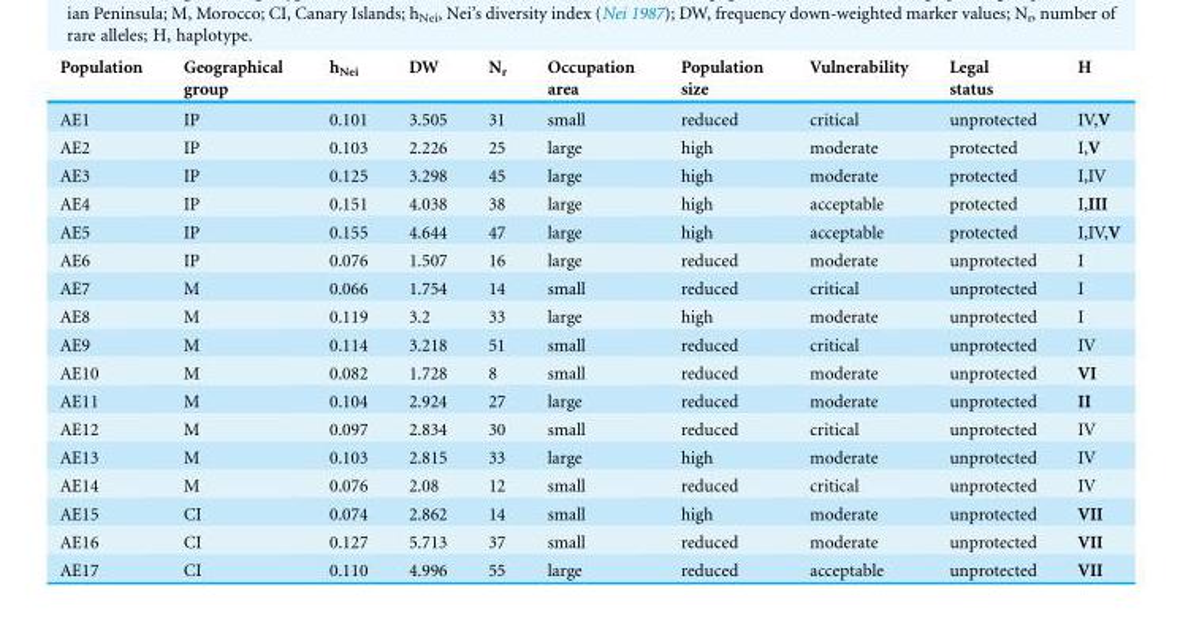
<table><thead><tr><td>Population</td><td>Geographical group</td><td>h<sub>Nei</sub></td><td>DW</td><td>N<sub>r</sub></td><td>Occupation area</td><td>Population size</td><td>Vulnerability</td><td>Legal status</td><td>H</td></tr></thead><tbody><tr><td>AE1</td><td>IP</td><td>0.101</td><td>3.505</td><td>31</td><td>small</td><td>reduced</td><td>critical</td><td>unprotected</td><td>IV,V</td></tr><tr><td>AE2</td><td>IP</td><td>0.103</td><td>2.226</td><td>25</td><td>large</td><td>high</td><td>moderate</td><td>protected</td><td>I,V</td></tr><tr><td>AE3</td><td>IP</td><td>0.125</td><td>3.298</td><td>45</td><td>large</td><td>high</td><td>moderate</td><td>protected</td><td>I,IV</td></tr><tr><td>AE4</td><td>IP</td><td>0.151</td><td>4.038</td><td>38</td><td>large</td><td>high</td><td>acceptable</td><td>protected</td><td>I,III</td></tr><tr><td>AE5</td><td>IP</td><td>0.155</td><td>4.644</td><td>47</td><td>large</td><td>high</td><td>acceptable</td><td>protected</td><td>I,IV,V</td></tr><tr><td>AE6</td><td>IP</td><td>0.076</td><td>1.507</td><td>16</td><td>large</td><td>reduced</td><td>moderate</td><td>unprotected</td><td>I</td></tr><tr><td>AE7</td><td>M</td><td>0.066</td><td>1.754</td><td>14</td><td>small</td><td>reduced</td><td>critical</td><td>unprotected</td><td>I</td></tr><tr><td>AE8</td><td>M</td><td>0.119</td><td>3.2</td><td>33</td><td>large</td><td>high</td><td>moderate</td><td>unprotected</td><td>I</td></tr><tr><td>AE9</td><td>M</td><td>0.114</td><td>3.218</td><td>51</td><td>small</td><td>reduced</td><td>critical</td><td>unprotected</td><td>IV</td></tr><tr><td>AE10</td><td>M</td><td>0.082</td><td>1.728</td><td>8</td><td>small</td><td>reduced</td><td>moderate</td><td>unprotected</td><td>VI</td></tr><tr><td>AE11</td><td>M</td><td>0.104</td><td>2.924</td><td>27</td><td>large</td><td>reduced</td><td>moderate</td><td>unprotected</td><td>II</td></tr><tr><td>AE12</td><td>M</td><td>0.097</td><td>2.834</td><td>30</td><td>small</td><td>reduced</td><td>critical</td><td>unprotected</td><td>IV</td></tr><tr><td>AE13</td><td>M</td><td>0.103</td><td>2.815</td><td>33</td><td>large</td><td>high</td><td>moderate</td><td>unprotected</td><td>IV</td></tr><tr><td>AE14</td><td>M</td><td>0.076</td><td>2.08</td><td>12</td><td>small</td><td>reduced</td><td>critical</td><td>unprotected</td><td>IV</td></tr><tr><td>AE15</td><td>CI</td><td>0.074</td><td>2.862</td><td>14</td><td>small</td><td>high</td><td>moderate</td><td>unprotected</td><td>VII</td></tr><tr><td>AE16</td><td>CI</td><td>0.127</td><td>5.713</td><td>37</td><td>small</td><td>reduced</td><td>moderate</td><td>unprotected</td><td>VII</td></tr><tr><td>AE17</td><td>CI</td><td>0.110</td><td>4.996</td><td>55</td><td>large</td><td>reduced</td><td>acceptable</td><td>unprotected</td><td>VII</td></tr></tbody></table>